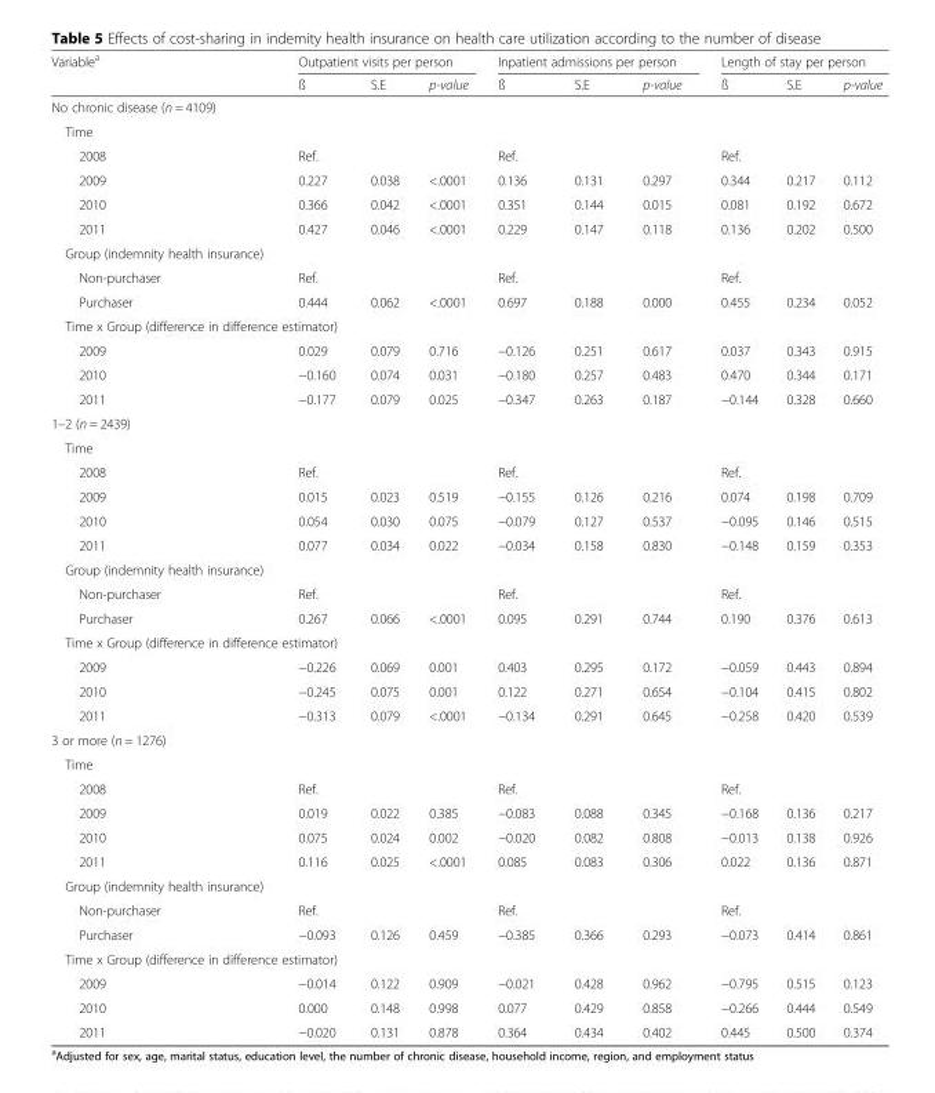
<table><thead><tr><td rowspan="2">Variable<sup>a</sup></td><td colspan="3">Outpatient visits per person</td><td colspan="3">Inpatient admissions per person</td><td colspan="3">Length of stay per person</td></tr><tr><td>ß</td><td>S.E</td><td>p-value</td><td>ß</td><td>S.E</td><td>p-value</td><td>ß</td><td>S.E</td><td>p-value</td></tr></thead><tbody><tr><td colspan="10">No chronic disease (n = 4109)</td></tr><tr><td colspan="10">Time</td></tr><tr><td>2008</td><td>Ref.</td><td></td><td></td><td>Ref.</td><td></td><td></td><td>Ref.</td><td></td><td></td></tr><tr><td>2009</td><td>0.227</td><td>0.038</td><td>&lt;.0001</td><td>0.136</td><td>0.131</td><td>0.297</td><td>0.344</td><td>0.217</td><td>0.112</td></tr><tr><td>2010</td><td>0.366</td><td>0.042</td><td>&lt;.0001</td><td>0.351</td><td>0.144</td><td>0.015</td><td>0.081</td><td>0.192</td><td>0.672</td></tr><tr><td>2011</td><td>0.427</td><td>0.046</td><td>&lt;.0001</td><td>0.229</td><td>0.147</td><td>0.118</td><td>0.136</td><td>0.202</td><td>0.500</td></tr><tr><td colspan="10">Group (indemnity health insurance)</td></tr><tr><td>Non-purchaser</td><td>Ref.</td><td></td><td></td><td>Ref.</td><td></td><td></td><td>Ref.</td><td></td><td></td></tr><tr><td>Purchaser</td><td>0.444</td><td>0.062</td><td>&lt;.0001</td><td>0.697</td><td>0.188</td><td>0.000</td><td>0.455</td><td>0.234</td><td>0.052</td></tr><tr><td colspan="10">Time x Group (difference in difference estimator)</td></tr><tr><td>2009</td><td>0.029</td><td>0.079</td><td>0.716</td><td>−0.126</td><td>0.251</td><td>0.617</td><td>0.037</td><td>0.343</td><td>0.915</td></tr><tr><td>2010</td><td>−0.160</td><td>0.074</td><td>0.031</td><td>−0.180</td><td>0.257</td><td>0.483</td><td>0.470</td><td>0.344</td><td>0.171</td></tr><tr><td>2011</td><td>−0.177</td><td>0.079</td><td>0.025</td><td>−0.347</td><td>0.263</td><td>0.187</td><td>−0.144</td><td>0.328</td><td>0.660</td></tr><tr><td colspan="10">1–2 (n = 2439)</td></tr><tr><td colspan="10">Time</td></tr><tr><td>2008</td><td>Ref.</td><td></td><td></td><td>Ref.</td><td></td><td></td><td>Ref.</td><td></td><td></td></tr><tr><td>2009</td><td>0.015</td><td>0.023</td><td>0.519</td><td>−0.155</td><td>0.126</td><td>0.216</td><td>0.074</td><td>0.198</td><td>0.709</td></tr><tr><td>2010</td><td>0.054</td><td>0.030</td><td>0.075</td><td>−0.079</td><td>0.127</td><td>0.537</td><td>−0.095</td><td>0.146</td><td>0.515</td></tr><tr><td>2011</td><td>0.077</td><td>0.034</td><td>0.022</td><td>−0.034</td><td>0.158</td><td>0.830</td><td>−0.148</td><td>0.159</td><td>0.353</td></tr><tr><td colspan="10">Group (indemnity health insurance)</td></tr><tr><td>Non-purchaser</td><td>Ref.</td><td></td><td></td><td>Ref.</td><td></td><td></td><td>Ref.</td><td></td><td></td></tr><tr><td>Purchaser</td><td>0.267</td><td>0.066</td><td>&lt;.0001</td><td>0.095</td><td>0.291</td><td>0.744</td><td>0.190</td><td>0.376</td><td>0.613</td></tr><tr><td colspan="10">Time x Group (difference in difference estimator)</td></tr><tr><td>2009</td><td>−0.226</td><td>0.069</td><td>0.001</td><td>0.403</td><td>0.295</td><td>0.172</td><td>−0.059</td><td>0.443</td><td>0.894</td></tr><tr><td>2010</td><td>−0.245</td><td>0.075</td><td>0.001</td><td>0.122</td><td>0.271</td><td>0.654</td><td>−0.104</td><td>0.415</td><td>0.802</td></tr><tr><td>2011</td><td>−0.313</td><td>0.079</td><td>&lt;.0001</td><td>−0.134</td><td>0.291</td><td>0.645</td><td>−0.258</td><td>0.420</td><td>0.539</td></tr><tr><td colspan="10">3 or more (n = 1276)</td></tr><tr><td colspan="10">Time</td></tr><tr><td>2008</td><td>Ref.</td><td></td><td></td><td>Ref.</td><td></td><td></td><td>Ref.</td><td></td><td></td></tr><tr><td>2009</td><td>0.019</td><td>0.022</td><td>0.385</td><td>−0.083</td><td>0.088</td><td>0.345</td><td>−0.168</td><td>0.136</td><td>0.217</td></tr><tr><td>2010</td><td>0.075</td><td>0.024</td><td>0.002</td><td>−0.020</td><td>0.082</td><td>0.808</td><td>−0.013</td><td>0.138</td><td>0.926</td></tr><tr><td>2011</td><td>0.116</td><td>0.025</td><td>&lt;.0001</td><td>0.085</td><td>0.083</td><td>0.306</td><td>0.022</td><td>0.136</td><td>0.871</td></tr><tr><td colspan="10">Group (indemnity health insurance)</td></tr><tr><td>Non-purchaser</td><td>Ref.</td><td></td><td></td><td>Ref.</td><td></td><td></td><td>Ref.</td><td></td><td></td></tr><tr><td>Purchaser</td><td>−0.093</td><td>0.126</td><td>0.459</td><td>−0.385</td><td>0.366</td><td>0.293</td><td>−0.073</td><td>0.414</td><td>0.861</td></tr><tr><td colspan="10">Time x Group (difference in difference estimator)</td></tr><tr><td>2009</td><td>−0.014</td><td>0.122</td><td>0.909</td><td>−0.021</td><td>0.428</td><td>0.962</td><td>−0.795</td><td>0.515</td><td>0.123</td></tr><tr><td>2010</td><td>0.000</td><td>0.148</td><td>0.998</td><td>0.077</td><td>0.429</td><td>0.858</td><td>−0.266</td><td>0.444</td><td>0.549</td></tr><tr><td>2011</td><td>−0.020</td><td>0.131</td><td>0.878</td><td>0.364</td><td>0.434</td><td>0.402</td><td>0.445</td><td>0.500</td><td>0.374</td></tr></tbody></table>